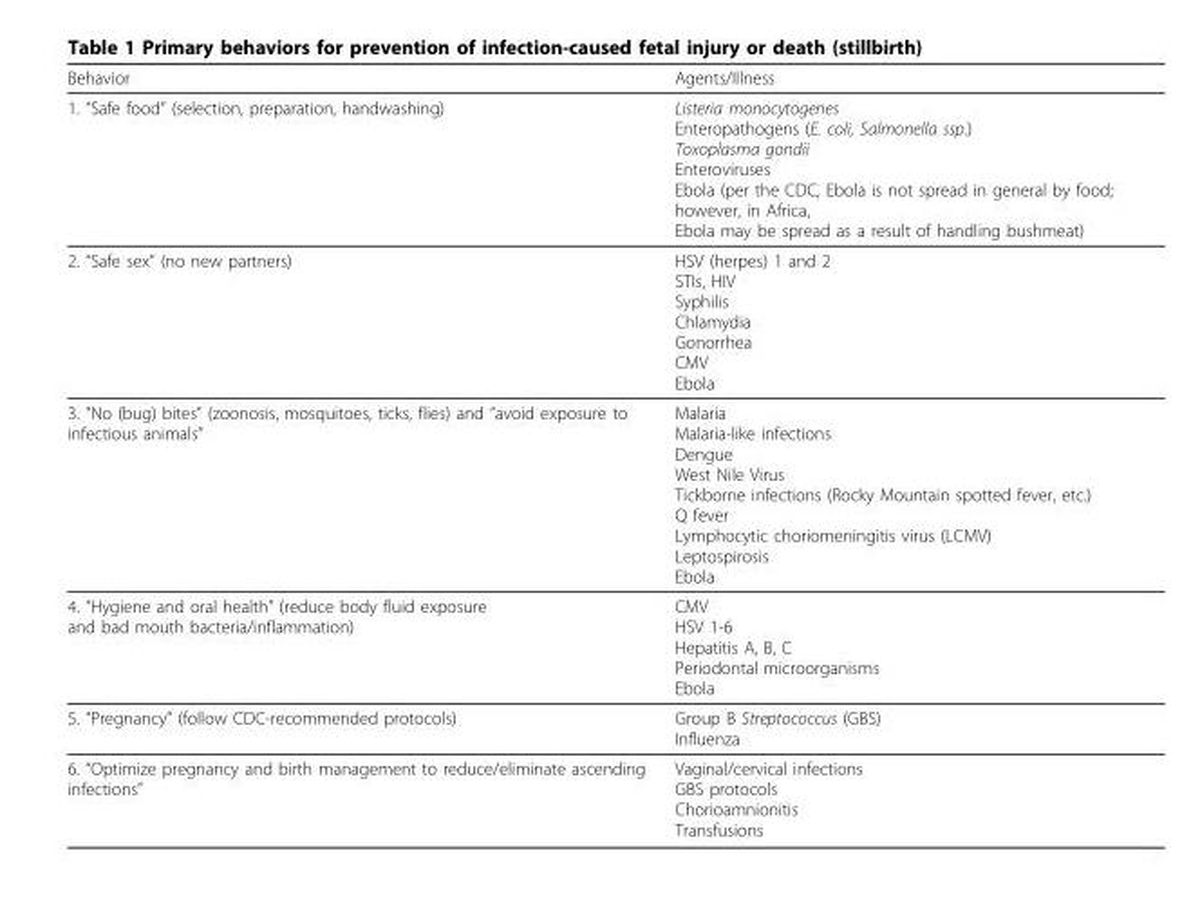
<table><thead><tr><td>Behavior</td><td>Agents/Illness</td></tr></thead><tbody><tr><td>1. “Safe food” (selection, preparation, handwashing)</td><td>Listeria monocytogenes Enteropathogens (E. coli, Salmonella ssp.) Toxoplasma gondii Enteroviruses Ebola (per the CDC, Ebola is not spread in general by food; however, in Africa, Ebola may be spread as a result of handling bushmeat)</td></tr><tr><td>2. “Safe sex” (no new partners)</td><td>HSV (herpes) 1 and 2 STIs, HIV Syphilis Chlamydia Gonorrhea CMV Ebola</td></tr><tr><td>3. “No (bug) bites” (zoonosis, mosquitoes, ticks, flies) and “avoid exposure to infectious animals”</td><td>Malaria Malaria-like infections Dengue West Nile Virus Tickborne infections (Rocky Mountain spotted fever, etc.) Q fever Lymphocytic choriomeningitis virus (LCMV) Leptospirosis Ebola</td></tr><tr><td>4. “Hygiene and oral health” (reduce body fluid exposure and bad mouth bacteria/inflammation)</td><td>CMV HSV 1-6 Hepatitis A, B, C Periodontal microorganisms Ebola</td></tr><tr><td>5. “Pregnancy” (follow CDC-recommended protocols)</td><td>Group B Streptococcus (GBS) Influenza</td></tr><tr><td>6. “Optimize pregnancy and birth management to reduce/eliminate ascending infections”</td><td>Vaginal/cervical infections GBS protocols Chorioamnionitis Transfusions</td></tr></tbody></table>